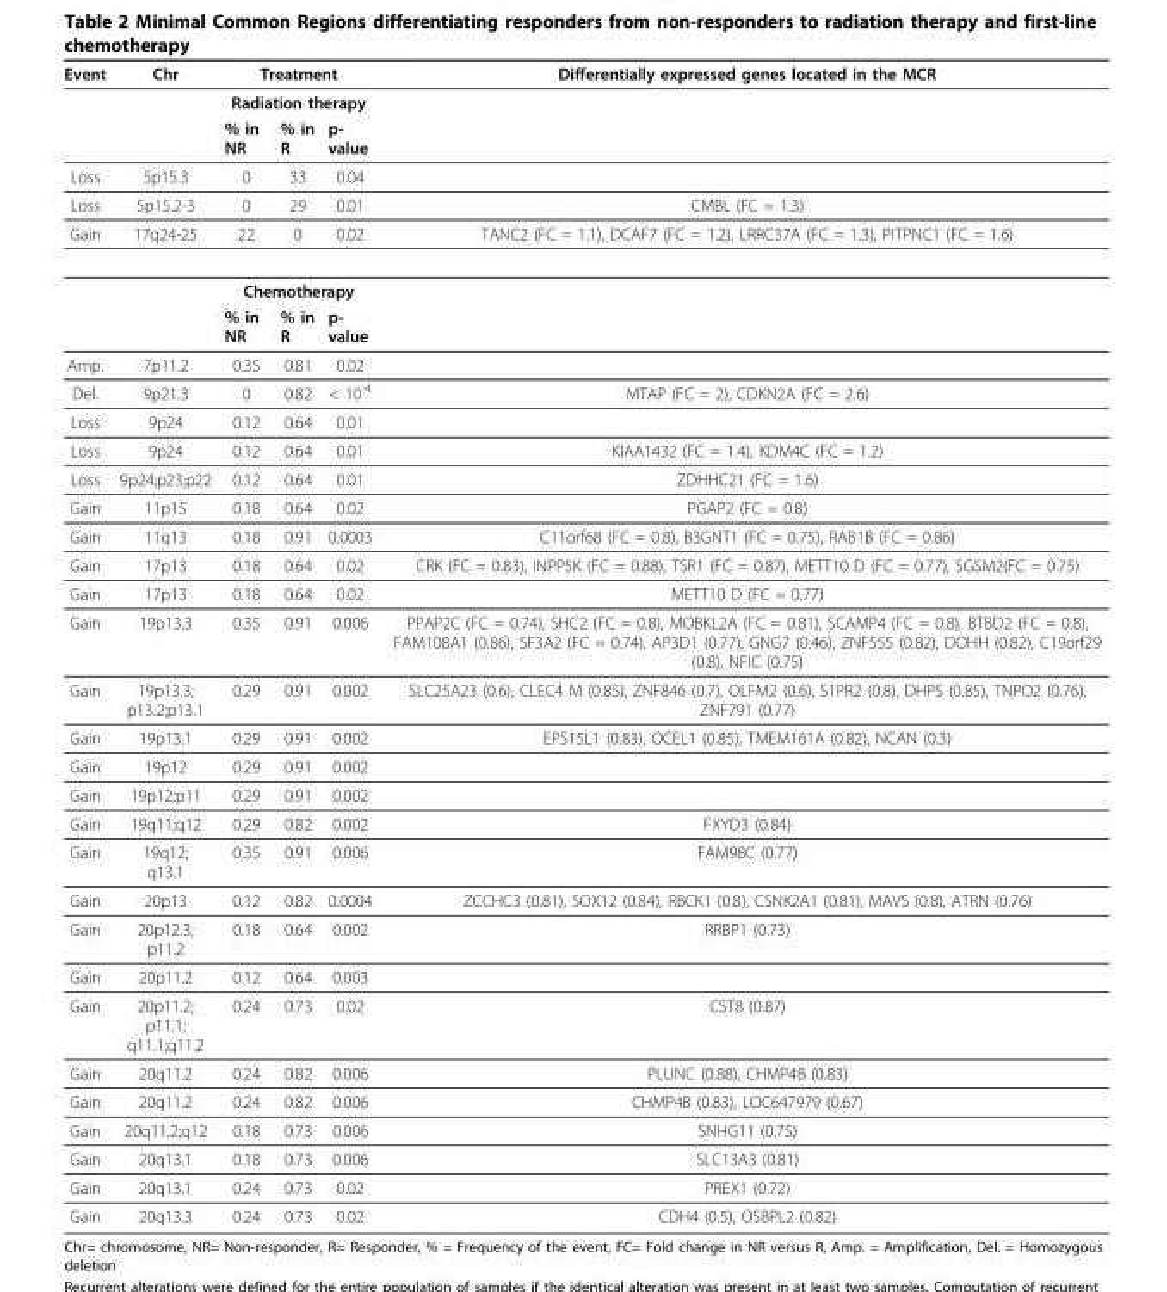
<table><thead><tr><td rowspan="3">Event</td><td rowspan="3">Chr</td><td rowspan="2" colspan="3">Treatment Radiation therapy</td><td rowspan="3">Differentially expressed genes located in the MCR</td></tr><tr></tr><tr><td>% in NR</td><td>% in R</td><td>p- value</td></tr></thead><tbody><tr><td>Loss</td><td>5p15.3</td><td>0</td><td>33</td><td>0.04</td><td></td></tr><tr><td>Loss</td><td>5p15.2-3</td><td>0</td><td>29</td><td>0.01</td><td>CMBL (FC = 1.3)</td></tr><tr><td rowspan="3">Gain</td><td>17q24-25</td><td>22</td><td>0</td><td>0.02</td><td>TANC2 (FC = 1.1), DCAF7 (FC = 1.2), LRRC37A (FC = 1.3), PITPNC1 (FC = 1.6)</td></tr><tr><td></td><td colspan="3">Chemotherapy</td><td></td></tr><tr><td></td><td>% in NR</td><td>% in R</td><td>p- value</td><td></td></tr><tr><td>Amp.</td><td>7p11.2</td><td>0.35</td><td>0.81</td><td>0.02</td><td></td></tr><tr><td>Del.</td><td>9p21.3</td><td>0</td><td>0.82</td><td>&lt; 10-4</td><td>MTAP (FC = 2), CDKN2A (FC = 2.6)</td></tr><tr><td>Loss</td><td>9p24</td><td>0.12</td><td>0.64</td><td>0.01</td><td></td></tr><tr><td>Loss</td><td>9p24</td><td>0.12</td><td>0.64</td><td>0.01</td><td>KIAA1432 (FC = 1.4), KDM4C (FC = 1.2)</td></tr><tr><td>Loss</td><td>9p24;p23;p22</td><td>0.12</td><td>0.64</td><td>0.01</td><td>ZDHHC21 (FC = 1.6)</td></tr><tr><td>Gain</td><td>11p15</td><td>0.18</td><td>0.64</td><td>0.02</td><td>PGAP2 (FC = 0.8)</td></tr><tr><td>Gain</td><td>11q13</td><td>0.18</td><td>0.91</td><td>0.0003</td><td>C11orf68 (FC = 0.8), B3GNT1 (FC = 0.75), RAB1B (FC = 0.86)</td></tr><tr><td>Gain</td><td>17p13</td><td>0.18</td><td>0.64</td><td>0.02</td><td>CRK (FC = 0.83), INPP5K (FC = 0.88), TSR1 (FC = 0.87), METT10 D (FC = 0.77), SGSM2(FC = 0.75)</td></tr><tr><td>Gain</td><td>17p13</td><td>0.18</td><td>0.64</td><td>0.02</td><td>METT10 D (FC = 0.77)</td></tr><tr><td>Gain</td><td>19p13.3</td><td>0.35</td><td>0.91</td><td>0.006</td><td>PPAP2C (FC = 0.74), SHC2 (FC = 0.8), MOBKL2A (FC = 0.81), SCAMP4 (FC = 0.8), BTBD2 (FC = 0.8), FAM108A1 (0.86), SF3A2 (FC = 0.74), AP3D1 (0.77), GNG7 (0.46), ZNF555 (0.82), DOHH (0.82), C19orf29 (0.8), NFIC (0.75)</td></tr><tr><td>Gain</td><td>19p13.3; p13.2;p13.1</td><td>0.29</td><td>0.91</td><td>0.002</td><td>SLC25A23 (0.6), CLEC4 M (0.85), ZNF846 (0.7), OLFM2 (0.6), S1PR2 (0.8), DHPS (0.85), TNPO2 (0.76), ZNF791 (0.77)</td></tr><tr><td>Gain</td><td>19p13.1</td><td>0.29</td><td>0.91</td><td>0.002</td><td>EPS15L1 (0.83), OCEL1 (0.85), TMEM161A (0.82), NCAN (0.3)</td></tr><tr><td>Gain</td><td>19p12</td><td>0.29</td><td>0.91</td><td>0.002</td><td></td></tr><tr><td>Gain</td><td>19p12;p11</td><td>0.29</td><td>0.91</td><td>0.002</td><td></td></tr><tr><td>Gain</td><td>19q11;q12</td><td>0.29</td><td>0.82</td><td>0.002</td><td>FXYD3 (0.84)</td></tr><tr><td>Gain</td><td>19q12; q13.1</td><td>0.35</td><td>0.91</td><td>0.006</td><td>FAM98C (0.77)</td></tr><tr><td>Gain</td><td>20p13</td><td>0.12</td><td>0.82</td><td>0.0004</td><td>ZCCHC3 (0.81), SOX12 (0.84), RBCK1 (0.8), CSNK2A1 (0.81), MAVS (0.8), ATRN (0.76)</td></tr><tr><td>Gain</td><td>20p12.3; p11.2</td><td>0.18</td><td>0.64</td><td>0.002</td><td>RRBP1 (0.73)</td></tr><tr><td>Gain</td><td>20p11.2</td><td>0.12</td><td>0.64</td><td>0.003</td><td></td></tr><tr><td>Gain</td><td>20p11.2; p11.1; q11.1;q11.2</td><td>0.24</td><td>0.73</td><td>0.02</td><td>CST8 (0.87)</td></tr><tr><td>Gain</td><td>20q11.2</td><td>0.24</td><td>0.82</td><td>0.006</td><td>PLUNC (0.88), CHMP4B (0.83)</td></tr><tr><td>Gain</td><td>20q11.2</td><td>0.24</td><td>0.82</td><td>0.006</td><td>CHMP4B (0.83), LOC647979 (0.67)</td></tr><tr><td>Gain</td><td>20q11.2;q12</td><td>0.18</td><td>0.73</td><td>0.006</td><td>SNHG11 (0.75)</td></tr><tr><td>Gain</td><td>20q13.1</td><td>0.18</td><td>0.73</td><td>0.006</td><td>SLC13A3 (0.81)</td></tr><tr><td>Gain</td><td>20q13.1</td><td>0.24</td><td>0.73</td><td>0.02</td><td>PREX1 (0.72)</td></tr><tr><td>Gain</td><td>20q13.3</td><td>0.24</td><td>0.73</td><td>0.02</td><td>CDH4 (0.5), OSBPL2 (0.82)</td></tr></tbody></table>